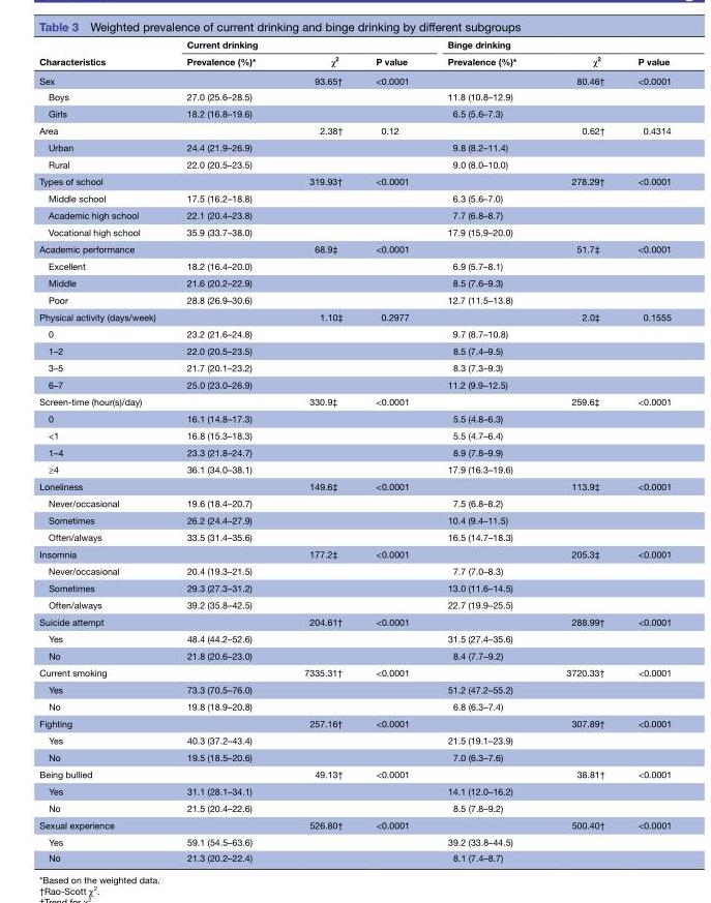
<table><thead><tr><td rowspan="2">Characteristics</td><td colspan="3">Current drinking</td><td colspan="3">Binge drinking</td></tr><tr><td>Prevalence (%)*</td><td>χ<sup>2</sup></td><td>P value</td><td>Prevalence (%)*</td><td>χ<sup>2</sup></td><td>P value</td></tr></thead><tbody><tr><td>Sex</td><td></td><td>93.65†</td><td>&lt;0.0001</td><td></td><td>80.46†</td><td>&lt;0.0001</td></tr><tr><td>Boys</td><td>27.0 (25.6–28.5)</td><td></td><td></td><td>11.8 (10.8–12.9)</td><td></td><td></td></tr><tr><td>Girls</td><td>18.2 (16.8–19.6)</td><td></td><td></td><td>6.5 (5.6–7.3)</td><td></td><td></td></tr><tr><td>Area</td><td></td><td>2.38†</td><td>0.12</td><td></td><td>0.62†</td><td>0.4314</td></tr><tr><td>Urban</td><td>24.4 (21.9–26.9)</td><td></td><td></td><td>9.8 (8.2–11.4)</td><td></td><td></td></tr><tr><td>Rural</td><td>22.0 (20.5–23.5)</td><td></td><td></td><td>9.0 (8.0–10.0)</td><td></td><td></td></tr><tr><td>Types of school</td><td></td><td>319.93†</td><td>&lt;0.0001</td><td></td><td>278.29†</td><td>&lt;0.0001</td></tr><tr><td>Middle school</td><td>17.5 (16.2–18.8)</td><td></td><td></td><td>6.3 (5.6–7.0)</td><td></td><td></td></tr><tr><td>Academic high school</td><td>22.1 (20.4–23.8)</td><td></td><td></td><td>7.7 (6.8–8.7)</td><td></td><td></td></tr><tr><td>Vocational high school</td><td>35.9 (33.7–38.0)</td><td></td><td></td><td>17.9 (15.9–20.0)</td><td></td><td></td></tr><tr><td>Academic performance</td><td></td><td>68.9‡</td><td>&lt;0.0001</td><td></td><td>51.7‡</td><td>&lt;0.0001</td></tr><tr><td>Excellent</td><td>18.2 (16.4–20.0)</td><td></td><td></td><td>6.9 (5.7–8.1)</td><td></td><td></td></tr><tr><td>Middle</td><td>21.6 (20.2–22.9)</td><td></td><td></td><td>8.5 (7.6–9.3)</td><td></td><td></td></tr><tr><td>Poor</td><td>28.8 (26.9–30.6)</td><td></td><td></td><td>12.7 (11.5–13.8)</td><td></td><td></td></tr><tr><td>Physical activity (days/week)</td><td></td><td>1.10‡</td><td>0.2977</td><td></td><td>2.0‡</td><td>0.1555</td></tr><tr><td>0</td><td>23.2 (21.6–24.8)</td><td></td><td></td><td>9.7 (8.7–10.8)</td><td></td><td></td></tr><tr><td>1–2</td><td>22.0 (20.5–23.5)</td><td></td><td></td><td>8.5 (7.4–9.5)</td><td></td><td></td></tr><tr><td>3–5</td><td>21.7 (20.1–23.2)</td><td></td><td></td><td>8.3 (7.3–9.3)</td><td></td><td></td></tr><tr><td>6–7</td><td>25.0 (23.0–26.9)</td><td></td><td></td><td>11.2 (9.9–12.5)</td><td></td><td></td></tr><tr><td>Screen-time (hour(s)/day)</td><td></td><td>330.9‡</td><td>&lt;0.0001</td><td></td><td>259.6‡</td><td>&lt;0.0001</td></tr><tr><td>0</td><td>16.1 (14.8–17.3)</td><td></td><td></td><td>5.5 (4.8–6.3)</td><td></td><td></td></tr><tr><td>&lt;1</td><td>16.8 (15.3–18.3)</td><td></td><td></td><td>5.5 (4.7–6.4)</td><td></td><td></td></tr><tr><td>1–4</td><td>23.3 (21.8–24.7)</td><td></td><td></td><td>8.9 (7.8–9.9)</td><td></td><td></td></tr><tr><td>≥4</td><td>36.1 (34.0–38.1)</td><td></td><td></td><td>17.9 (16.3–19.6)</td><td></td><td></td></tr><tr><td>Loneliness</td><td></td><td>149.6‡</td><td>&lt;0.0001</td><td></td><td>113.9‡</td><td>&lt;0.0001</td></tr><tr><td>Never/occasional</td><td>19.6 (18.4–20.7)</td><td></td><td></td><td>7.5 (6.8–8.2)</td><td></td><td></td></tr><tr><td>Sometimes</td><td>26.2 (24.4–27.9)</td><td></td><td></td><td>10.4 (9.4–11.5)</td><td></td><td></td></tr><tr><td>Often/always</td><td>33.5 (31.4–35.6)</td><td></td><td></td><td>16.5 (14.7–18.3)</td><td></td><td></td></tr><tr><td>Insomnia</td><td></td><td>177.2‡</td><td>&lt;0.0001</td><td></td><td>205.3‡</td><td>&lt;0.0001</td></tr><tr><td>Never/occasional</td><td>20.4 (19.3–21.5)</td><td></td><td></td><td>7.7 (7.0–8.3)</td><td></td><td></td></tr><tr><td>Sometimes</td><td>29.3 (27.3–31.2)</td><td></td><td></td><td>13.0 (11.6–14.5)</td><td></td><td></td></tr><tr><td>Often/always</td><td>39.2 (35.8–42.5)</td><td></td><td></td><td>22.7 (19.9–25.5)</td><td></td><td></td></tr><tr><td>Suicide attempt</td><td></td><td>204.61†</td><td>&lt;0.0001</td><td></td><td>288.99†</td><td>&lt;0.0001</td></tr><tr><td>Yes</td><td>48.4 (44.2–52.6)</td><td></td><td></td><td>31.5 (27.4–35.6)</td><td></td><td></td></tr><tr><td>No</td><td>21.8 (20.6–23.0)</td><td></td><td></td><td>8.4 (7.7–9.2)</td><td></td><td></td></tr><tr><td>Current smoking</td><td></td><td>7335.31†</td><td>&lt;0.0001</td><td></td><td>3720.33†</td><td>&lt;0.0001</td></tr><tr><td>Yes</td><td>73.3 (70.5–76.0)</td><td></td><td></td><td>51.2 (47.2–55.2)</td><td></td><td></td></tr><tr><td>No</td><td>19.8 (18.9–20.8)</td><td></td><td></td><td>6.8 (6.3–7.4)</td><td></td><td></td></tr><tr><td>Fighting</td><td></td><td>257.16†</td><td>&lt;0.0001</td><td></td><td>307.89†</td><td>&lt;0.0001</td></tr><tr><td>Yes</td><td>40.3 (37.2–43.4)</td><td></td><td></td><td>21.5 (19.1–23.9)</td><td></td><td></td></tr><tr><td>No</td><td>19.5 (18.5–20.6)</td><td></td><td></td><td>7.0 (6.3–7.6)</td><td></td><td></td></tr><tr><td>Being bullied</td><td></td><td>49.13†</td><td>&lt;0.0001</td><td></td><td>38.81†</td><td>&lt;0.0001</td></tr><tr><td>Yes</td><td>31.1 (28.1–34.1)</td><td></td><td></td><td>14.1 (12.0–16.2)</td><td></td><td></td></tr><tr><td>No</td><td>21.5 (20.4–22.6)</td><td></td><td></td><td>8.5 (7.8–9.2)</td><td></td><td></td></tr><tr><td>Sexual experience</td><td></td><td>526.80†</td><td>&lt;0.0001</td><td></td><td>500.40†</td><td>&lt;0.0001</td></tr><tr><td>Yes</td><td>59.1 (54.5–63.6)</td><td></td><td></td><td>39.2 (33.8–44.5)</td><td></td><td></td></tr><tr><td>No</td><td>21.3 (20.2–22.4)</td><td></td><td></td><td>8.1 (7.4–8.7)</td><td></td><td></td></tr></tbody></table>